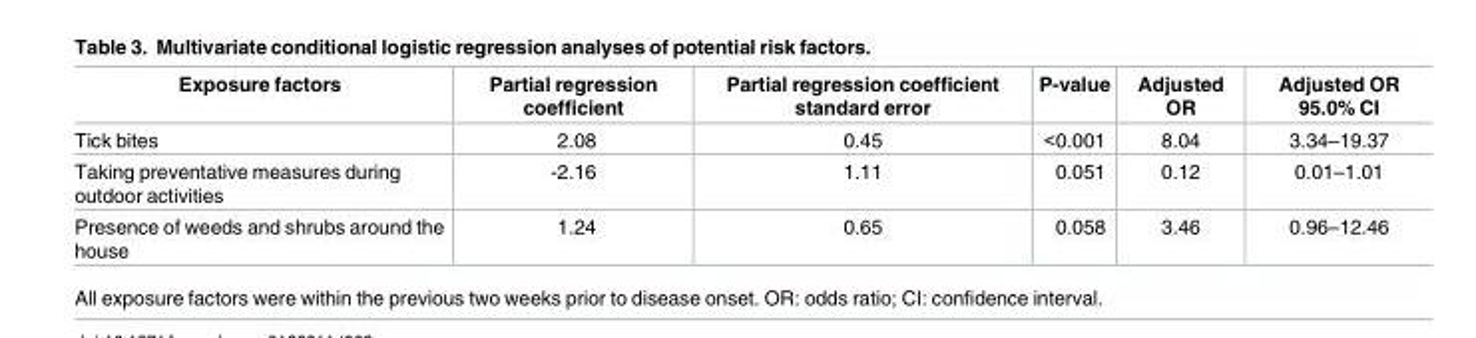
<table><thead><tr><td>Exposure factors</td><td>Partial regression coefficient</td><td>Partial regression coefficient standard error</td><td>P-value</td><td>Adjusted OR</td><td>Adjusted OR 95.0% CI</td></tr></thead><tbody><tr><td>Tick bites</td><td>2.08</td><td>0.45</td><td>&lt;0.001</td><td>8.04</td><td>3.34–19.37</td></tr><tr><td>Taking preventative measures during outdoor activities</td><td>-2.16</td><td>1.11</td><td>0.051</td><td>0.12</td><td>0.01–1.01</td></tr><tr><td>Presence of weeds and shrubs around the house</td><td>1.24</td><td>0.65</td><td>0.058</td><td>3.46</td><td>0.96–12.46</td></tr></tbody></table>